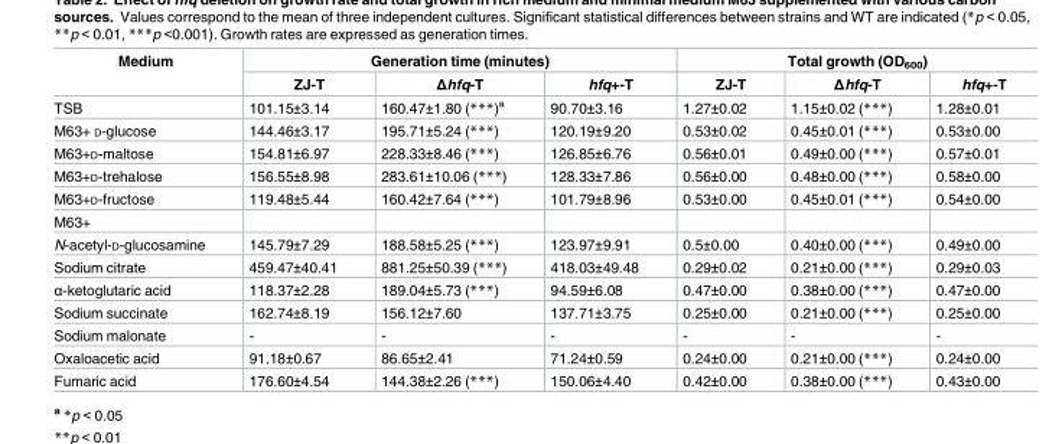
<table><thead><tr><td rowspan="2">Medium</td><td colspan="3">Generation time (minutes)</td><td colspan="3">Total growth (OD<sub>600</sub>)</td></tr><tr><td>ZJ-T</td><td>Δhfq-T</td><td>hfq+-T</td><td>ZJ-T</td><td>Δhfq-T</td><td>hfq+-T</td></tr></thead><tbody><tr><td>TSB</td><td>101.15±3.14</td><td>160.47±1.80 (***)<sup>a</sup></td><td>90.70±3.16</td><td>1.27±0.02</td><td>1.15±0.02 (***)</td><td>1.28±0.01</td></tr><tr><td>M63+ D-glucose</td><td>144.46±3.17</td><td>195.71±5.24 (***)</td><td>120.19±9.20</td><td>0.53±0.02</td><td>0.45±0.01 (***)</td><td>0.53±0.00</td></tr><tr><td>M63+D-maltose</td><td>154.81±6.97</td><td>228.33±8.46 (***)</td><td>126.85±6.76</td><td>0.56±0.01</td><td>0.49±0.00 (***)</td><td>0.57±0.01</td></tr><tr><td>M63+D-trehalose</td><td>156.55±8.98</td><td>283.61±10.06 (***)</td><td>128.33±7.86</td><td>0.56±0.00</td><td>0.48±0.00 (***)</td><td>0.58±0.00</td></tr><tr><td>M63+D-fructose</td><td>119.48±5.44</td><td>160.42±7.64 (***)</td><td>101.79±8.96</td><td>0.53±0.00</td><td>0.45±0.01 (***)</td><td>0.54±0.00</td></tr><tr><td colspan="7">M63+</td></tr><tr><td>N-acetyl-D-glucosamine</td><td>145.79±7.29</td><td>188.58±5.25 (***)</td><td>123.97±9.91</td><td>0.5±0.00</td><td>0.40±0.00 (***)</td><td>0.49±0.00</td></tr><tr><td>Sodium citrate</td><td>459.47±40.41</td><td>881.25±50.39 (***)</td><td>418.03±49.48</td><td>0.29±0.02</td><td>0.21±0.00 (***)</td><td>0.29±0.03</td></tr><tr><td>α-ketoglutaric acid</td><td>118.37±2.28</td><td>189.04±5.73 (***)</td><td>94.59±6.08</td><td>0.47±0.00</td><td>0.38±0.00 (***)</td><td>0.47±0.00</td></tr><tr><td>Sodium succinate</td><td>162.74±8.19</td><td>156.12±7.60</td><td>137.71±3.75</td><td>0.25±0.00</td><td>0.21±0.00 (***)</td><td>0.25±0.00</td></tr><tr><td>Sodium malonate</td><td>-</td><td>-</td><td>-</td><td>-</td><td>-</td><td>-</td></tr><tr><td>Oxaloacetic acid</td><td>91.18±0.67</td><td>86.65±2.41</td><td>71.24±0.59</td><td>0.24±0.00</td><td>0.21±0.00 (***)</td><td>0.24±0.00</td></tr><tr><td>Fumaric acid</td><td>176.60±4.54</td><td>144.38±2.26 (***)</td><td>150.06±4.40</td><td>0.42±0.00</td><td>0.38±0.00 (***)</td><td>0.43±0.00</td></tr></tbody></table>